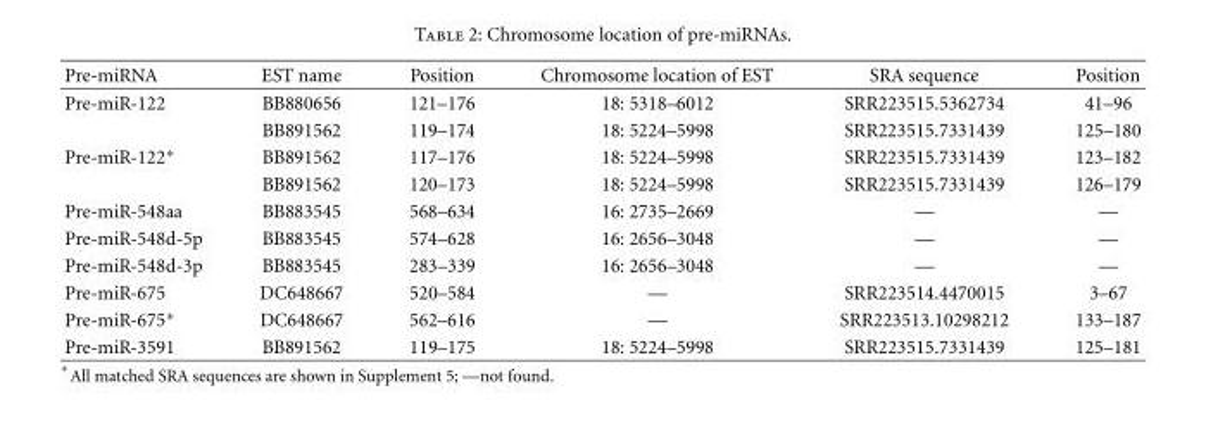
<table><thead><tr><td>Pre-miRNA</td><td>EST name</td><td>Position</td><td>Chromosome location of EST</td><td>SRA sequence</td><td>Position</td></tr></thead><tbody><tr><td rowspan="2">Pre-miR-122</td><td>BB880656</td><td>121–176</td><td>18: 5318–6012</td><td>SRR223515.5362734</td><td>41–96</td></tr><tr><td>BB891562</td><td>119–174</td><td>18: 5224–5998</td><td>SRR223515.7331439</td><td>125–180</td></tr><tr><td rowspan="2">Pre-miR-122∗</td><td>BB891562</td><td>117–176</td><td>18: 5224–5998</td><td>SRR223515.7331439</td><td>123–182</td></tr><tr><td>BB891562</td><td>120–173</td><td>18: 5224–5998</td><td>SRR223515.7331439</td><td>126–179</td></tr><tr><td>Pre-miR-548aa</td><td>BB883545</td><td>568–634</td><td>16: 2735–2669</td><td>—</td><td>—</td></tr><tr><td>Pre-miR-548d-5p</td><td>BB883545</td><td>574–628</td><td>16: 2656–3048</td><td>—</td><td>—</td></tr><tr><td>Pre-miR-548d-3p</td><td>BB883545</td><td>283–339</td><td>16: 2656–3048</td><td>—</td><td>—</td></tr><tr><td>Pre-miR-675</td><td>DC648667</td><td>520–584</td><td>—</td><td>SRR223514.4470015</td><td>3–67</td></tr><tr><td>Pre-miR-675∗</td><td>DC648667</td><td>562–616</td><td>—</td><td>SRR223513.10298212</td><td>133–187</td></tr><tr><td>Pre-miR-3591</td><td>BB891562</td><td>119–175</td><td>18: 5224–5998</td><td>SRR223515.7331439</td><td>125–181</td></tr></tbody></table>